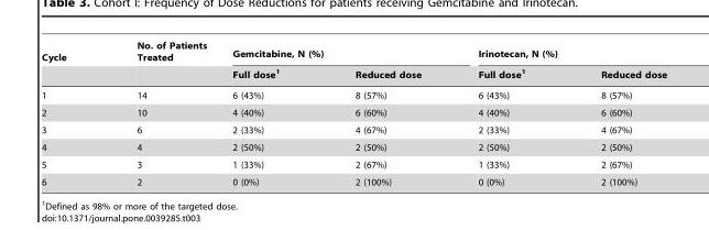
<table><thead><tr><td rowspan="2">Cycle</td><td rowspan="2">No. of Patients Treated</td><td colspan="2">Gemcitabine, N (%)</td><td colspan="2">Irinotecan, N (%)</td></tr><tr><td>Full dose<sup>1</sup></td><td>Reduced dose</td><td>Full dose<sup>1</sup></td><td>Reduced dose</td></tr></thead><tbody><tr><td>1</td><td>14</td><td>6 (43%)</td><td>8 (57%)</td><td>6 (43%)</td><td>8 (57%)</td></tr><tr><td>2</td><td>10</td><td>4 (40%)</td><td>6 (60%)</td><td>4 (40%)</td><td>6 (60%)</td></tr><tr><td>3</td><td>6</td><td>2 (33%)</td><td>4 (67%)</td><td>2 (33%)</td><td>4 (67%)</td></tr><tr><td>4</td><td>4</td><td>2 (50%)</td><td>2 (50%)</td><td>2 (50%)</td><td>2 (50%)</td></tr><tr><td>5</td><td>3</td><td>1 (33%)</td><td>2 (67%)</td><td>1 (33%)</td><td>2 (67%)</td></tr><tr><td>6</td><td>2</td><td>0 (0%)</td><td>2 (100%)</td><td>0 (0%)</td><td>2 (100%)</td></tr></tbody></table>